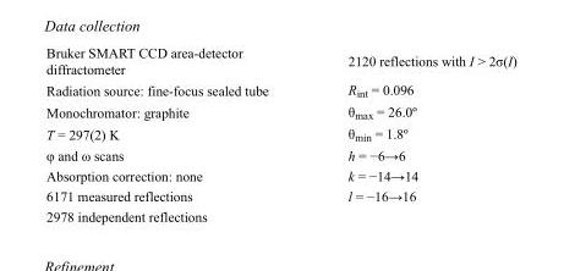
<table><tbody><tr><td>Bruker SMART CCD area-detector diffractometer</td><td>2120 reflections with I &gt; 2σ(I)</td></tr><tr><td>Radiation source: fine-focus sealed tube</td><td>R<sub>int</sub> = 0.096</td></tr><tr><td>Monochromator: graphite</td><td>θ<sub>max</sub> = 26.0º</td></tr><tr><td>T = 297(2) K</td><td>θ<sub>min</sub> = 1.8º</td></tr><tr><td>φ and ω scans</td><td>h = −6→6</td></tr><tr><td>Absorption correction: none</td><td>k = −14→14</td></tr><tr><td>6171 measured reflections</td><td>l = −16→16</td></tr><tr><td>2978 independent reflections</td><td></td></tr></tbody></table>